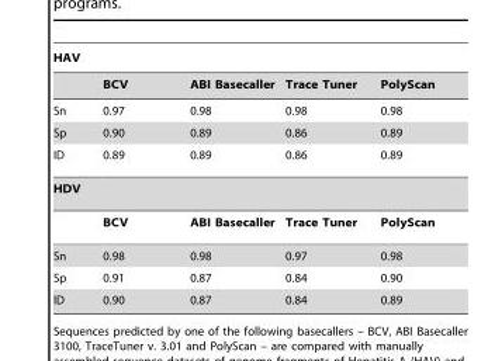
<table><thead><tr><td colspan="5">HAV</td></tr><tr><td></td><td>BCV</td><td>ABI Basecaller</td><td>Trace Tuner</td><td>PolyScan</td></tr></thead><tbody><tr><td>Sn</td><td>0.97</td><td>0.98</td><td>0.98</td><td>0.98</td></tr><tr><td>Sp</td><td>0.90</td><td>0.89</td><td>0.86</td><td>0.89</td></tr><tr><td>ID</td><td>0.89</td><td>0.89</td><td>0.86</td><td>0.89</td></tr><tr><td colspan="5">HDV</td></tr><tr><td></td><td>BCV</td><td>ABI Basecaller</td><td>Trace Tuner</td><td>PolyScan</td></tr><tr><td>Sn</td><td>0.98</td><td>0.98</td><td>0.97</td><td>0.98</td></tr><tr><td>Sp</td><td>0.91</td><td>0.87</td><td>0.84</td><td>0.90</td></tr><tr><td>ID</td><td>0.90</td><td>0.87</td><td>0.84</td><td>0.89</td></tr></tbody></table>